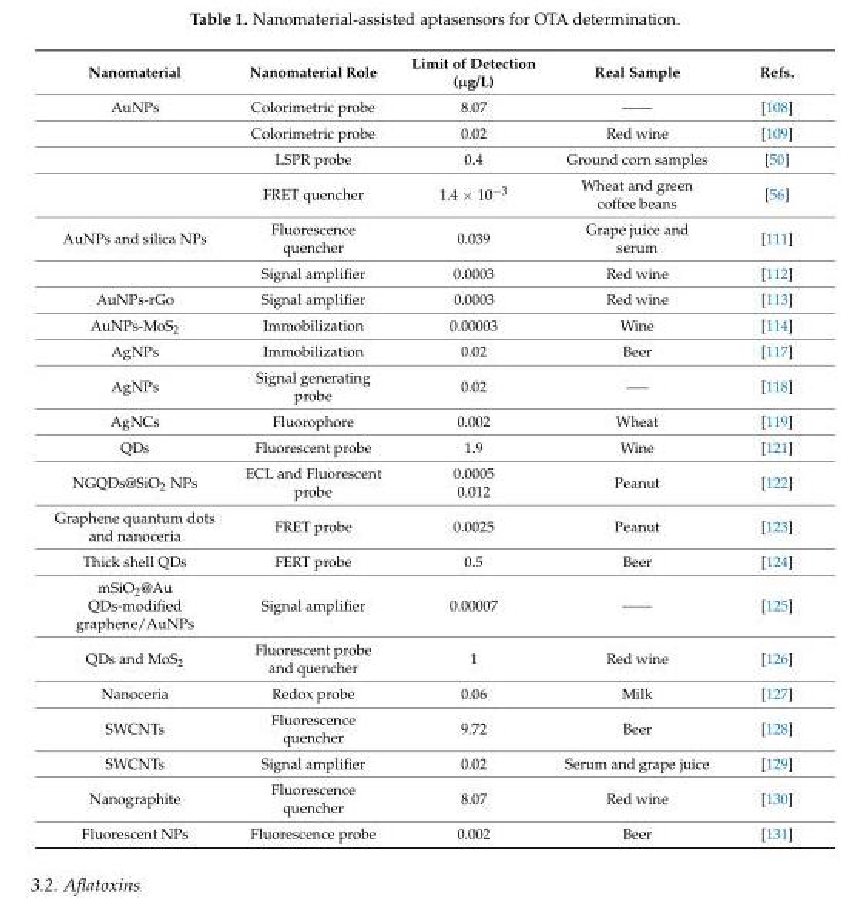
<table><thead><tr><td>Nanomaterial</td><td>Nanomaterial Role</td><td>Limit of Detection (µg/L)</td><td>Real Sample</td><td>Refs.</td></tr></thead><tbody><tr><td rowspan="4">AuNPs</td><td>Colorimetric probe</td><td>8.07</td><td>——</td><td>[108]</td></tr><tr><td>Colorimetric probe</td><td>0.02</td><td>Red wine</td><td>[109]</td></tr><tr><td>LSPR probe</td><td>0.4</td><td>Ground corn samples</td><td>[50]</td></tr><tr><td>FRET quencher</td><td>1.4 × 10<sup>−3</sup></td><td>Wheat and green coffee beans</td><td>[56]</td></tr><tr><td rowspan="2">AuNPs and silica NPs</td><td>Fluorescence quencher</td><td>0.039</td><td>Grape juice and serum</td><td>[111]</td></tr><tr><td>Signal amplifier</td><td>0.0003</td><td>Red wine</td><td>[112]</td></tr><tr><td>AuNPs-rGo</td><td>Signal amplifier</td><td>0.0003</td><td>Red wine</td><td>[113]</td></tr><tr><td>AuNPs-MoS<sub>2</sub></td><td>Immobilization</td><td>0.00003</td><td>Wine</td><td>[114]</td></tr><tr><td>AgNPs</td><td>Immobilization</td><td>0.02</td><td>Beer</td><td>[117]</td></tr><tr><td>AgNPs</td><td>Signal generating probe</td><td>0.02</td><td>—–</td><td>[118]</td></tr><tr><td>AgNCs</td><td>Fluorophore</td><td>0.002</td><td>Wheat</td><td>[119]</td></tr><tr><td>QDs</td><td>Fluorescent probe</td><td>1.9</td><td>Wine</td><td>[121]</td></tr><tr><td>NGQDs@SiO<sub>2</sub> NPs</td><td>ECL and Fluorescent probe</td><td>0.0005 0.012</td><td>Peanut</td><td>[122]</td></tr><tr><td>Graphene quantum dots and nanoceria</td><td>FRET probe</td><td>0.0025</td><td>Peanut</td><td>[123]</td></tr><tr><td>Thick shell QDs</td><td>FERT probe</td><td>0.5</td><td>Beer</td><td>[124]</td></tr><tr><td>mSiO<sub>2</sub>@Au QDs-modified graphene/AuNPs</td><td>Signal amplifier</td><td>0.00007</td><td>——</td><td>[125]</td></tr><tr><td>QDs and MoS<sub>2</sub></td><td>Fluorescent probe and quencher</td><td>1</td><td>Red wine</td><td>[126]</td></tr><tr><td>Nanoceria</td><td>Redox probe</td><td>0.06</td><td>Milk</td><td>[127]</td></tr><tr><td>SWCNTs</td><td>Fluorescence quencher</td><td>9.72</td><td>Beer</td><td>[128]</td></tr><tr><td>SWCNTs</td><td>Signal amplifier</td><td>0.02</td><td>Serum and grape juice</td><td>[129]</td></tr><tr><td>Nanographite</td><td>Fluorescence quencher</td><td>8.07</td><td>Red wine</td><td>[130]</td></tr><tr><td>Fluorescent NPs</td><td>Fluorescence probe</td><td>0.002</td><td>Beer</td><td>[131]</td></tr></tbody></table>